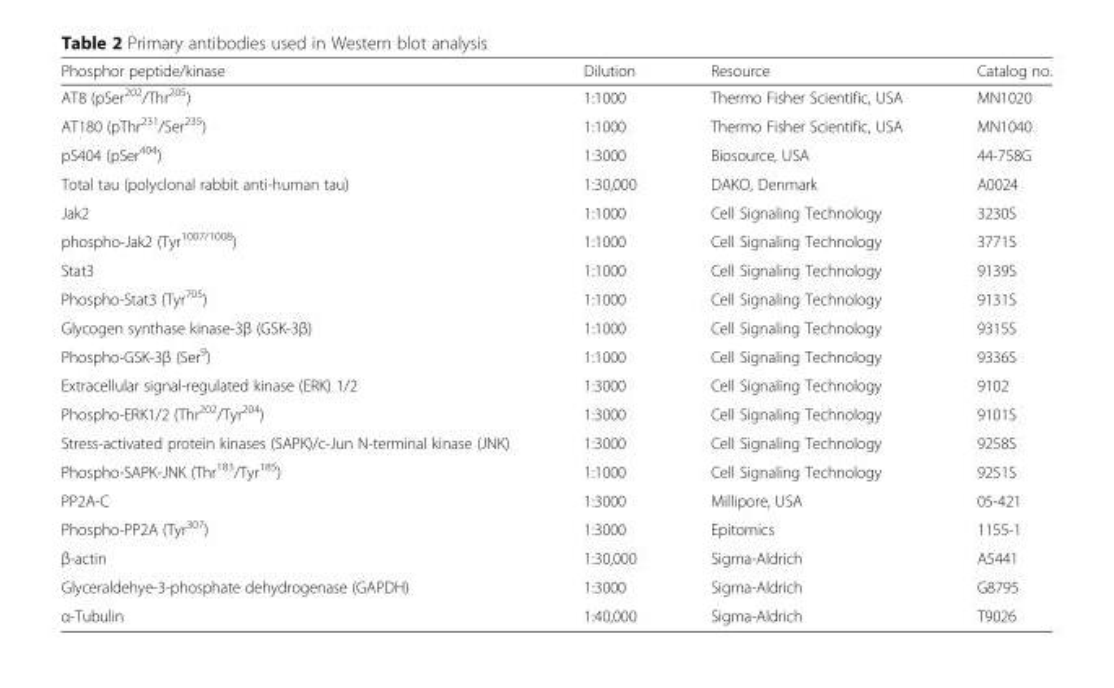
<table><thead><tr><td>Phosphor peptide/kinase</td><td>Dilution</td><td>Resource</td><td>Catalog no.</td></tr></thead><tbody><tr><td>AT8 (pSer<sup>202</sup>/Thr<sup>205</sup>)</td><td>1:1000</td><td>Thermo Fisher Scientific, USA</td><td>MN1020</td></tr><tr><td>AT180 (pThr<sup>231</sup>/Ser<sup>235</sup>)</td><td>1:1000</td><td>Thermo Fisher Scientific, USA</td><td>MN1040</td></tr><tr><td>pS404 (pSer<sup>404</sup>)</td><td>1:3000</td><td>Biosource, USA</td><td>44-758G</td></tr><tr><td>Total tau (polyclonal rabbit anti-human tau)</td><td>1:30,000</td><td>DAKO, Denmark</td><td>A0024</td></tr><tr><td>Jak2</td><td>1:1000</td><td>Cell Signaling Technology</td><td>3230S</td></tr><tr><td>phospho-Jak2 (Tyr<sup>1007/1008</sup>)</td><td>1:1000</td><td>Cell Signaling Technology</td><td>3771S</td></tr><tr><td>Stat3</td><td>1:1000</td><td>Cell Signaling Technology</td><td>9139S</td></tr><tr><td>Phospho-Stat3 (Tyr<sup>705</sup>)</td><td>1:1000</td><td>Cell Signaling Technology</td><td>9131S</td></tr><tr><td>Glycogen synthase kinase-3β (GSK-3β)</td><td>1:1000</td><td>Cell Signaling Technology</td><td>9315S</td></tr><tr><td>Phospho-GSK-3β (Ser<sup>9</sup>)</td><td>1:1000</td><td>Cell Signaling Technology</td><td>9336S</td></tr><tr><td>Extracellular signal-regulated kinase (ERK) 1/2</td><td>1:3000</td><td>Cell Signaling Technology</td><td>9102</td></tr><tr><td>Phospho-ERK1/2 (Thr<sup>202</sup>/Tyr<sup>204</sup>)</td><td>1:3000</td><td>Cell Signaling Technology</td><td>9101S</td></tr><tr><td>Stress-activated protein kinases (SAPK)/c-Jun N-terminal kinase (JNK)</td><td>1:3000</td><td>Cell Signaling Technology</td><td>9258S</td></tr><tr><td>Phospho-SAPK-JNK (Thr<sup>183</sup>/Tyr<sup>185</sup>)</td><td>1:1000</td><td>Cell Signaling Technology</td><td>9251S</td></tr><tr><td>PP2A-C</td><td>1:3000</td><td>Millipore, USA</td><td>05-421</td></tr><tr><td>Phospho-PP2A (Tyr<sup>307</sup>)</td><td>1:3000</td><td>Epitomics</td><td>1155-1</td></tr><tr><td>β-actin</td><td>1:30,000</td><td>Sigma-Aldrich</td><td>A5441</td></tr><tr><td>Glyceraldehye-3-phosphate dehydrogenase (GAPDH)</td><td>1:3000</td><td>Sigma-Aldrich</td><td>G8795</td></tr><tr><td>α-Tubulin</td><td>1:40,000</td><td>Sigma-Aldrich</td><td>T9026</td></tr></tbody></table>